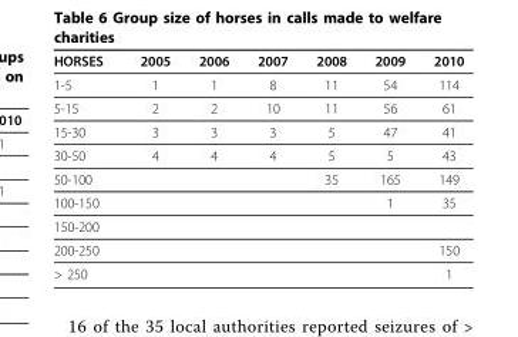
<table><thead><tr><td>HORSES</td><td>2005</td><td>2006</td><td>2007</td><td>2008</td><td>2009</td><td>2010</td></tr></thead><tbody><tr><td>1-5</td><td>1</td><td>1</td><td>8</td><td>11</td><td>54</td><td>114</td></tr><tr><td>5-15</td><td>2</td><td>2</td><td>10</td><td>11</td><td>56</td><td>61</td></tr><tr><td>15-30</td><td>3</td><td>3</td><td>3</td><td>5</td><td>47</td><td>41</td></tr><tr><td>30-50</td><td>4</td><td>4</td><td>4</td><td>5</td><td>5</td><td>43</td></tr><tr><td>50-100</td><td></td><td></td><td></td><td>35</td><td>165</td><td>149</td></tr><tr><td>100-150</td><td></td><td></td><td></td><td></td><td>1</td><td>35</td></tr><tr><td colspan="7">150-200</td></tr><tr><td>200-250</td><td></td><td></td><td></td><td></td><td></td><td>150</td></tr><tr><td>&gt; 250</td><td></td><td></td><td></td><td></td><td></td><td>1</td></tr></tbody></table>